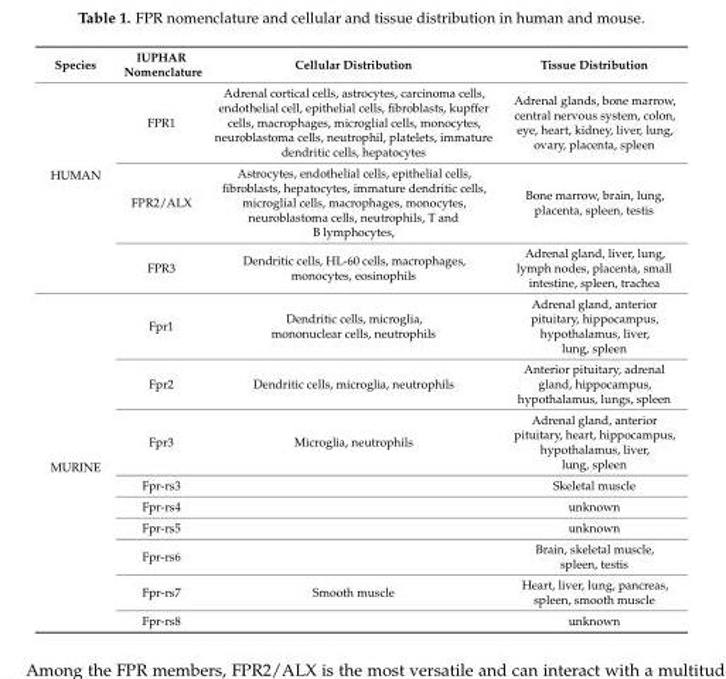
<table><thead><tr><td>Species</td><td>IUPHAR Nomenclature</td><td>Cellular Distribution</td><td>Tissue Distribution</td></tr></thead><tbody><tr><td rowspan="3">HUMAN</td><td>FPR1</td><td>Adrenal cortical cells, astrocytes, carcinoma cells, endothelial cell, epithelial cells, fibroblasts, kupffer cells, macrophages, microglial cells, monocytes, neuroblastoma cells, neutrophil, platelets, immature dendritic cells, hepatocytes</td><td>Adrenal glands, bone marrow, central nervous system, colon, eye, heart, kidney, liver, lung, ovary, placenta, spleen</td></tr><tr><td>FPR2/ALX</td><td>Astrocytes, endothelial cells, epithelial cells, fibroblasts, hepatocytes, immature dendritic cells, microglial cells, macrophages, monocytes, neuroblastoma cells, neutrophils, T and B lymphocytes,</td><td>Bone marrow, brain, lung, placenta, spleen, testis</td></tr><tr><td>FPR3</td><td>Dendritic cells, HL-60 cells, macrophages, monocytes, eosinophils</td><td>Adrenal gland, liver, lung, lymph nodes, placenta, small intestine, spleen, trachea</td></tr><tr><td rowspan="9">MURINE</td><td>Fpr1</td><td>Dendritic cells, microglia, mononuclear cells, neutrophils</td><td>Adrenal gland, anterior pituitary, hippocampus, hypothalamus, liver, lung, spleen</td></tr><tr><td>Fpr2</td><td>Dendritic cells, microglia, neutrophils</td><td>Anterior pituitary, adrenal gland, hippocampus, hypothalamus, lungs, spleen</td></tr><tr><td>Fpr3</td><td>Microglia, neutrophils</td><td>Adrenal gland, anterior pituitary, heart, hippocampus, hypothalamus, liver, lung, spleen</td></tr><tr><td>Fpr-rs3</td><td></td><td>Skeletal muscle</td></tr><tr><td>Fpr-rs4</td><td></td><td>unknown</td></tr><tr><td>Fpr-rs5</td><td></td><td>unknown</td></tr><tr><td>Fpr-rs6</td><td></td><td>Brain, skeletal muscle, spleen, testis</td></tr><tr><td>Fpr-rs7</td><td>Smooth muscle</td><td>Heart, liver, lung, pancreas, spleen, smooth muscle</td></tr><tr><td>Fpr-rs8</td><td></td><td>unknown</td></tr></tbody></table>